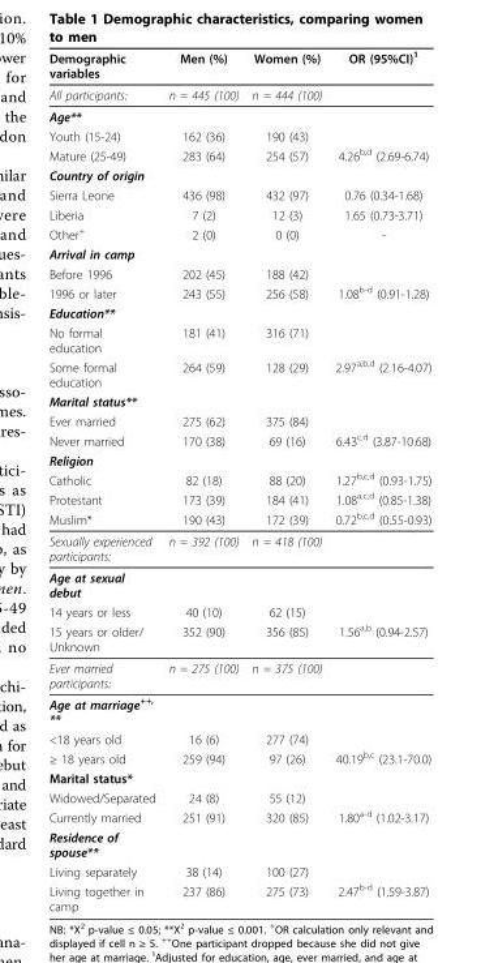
<table><thead><tr><td>Demographic variables</td><td>Men (%)</td><td>Women (%)</td><td>OR (95%CI)<sup>1</sup></td></tr></thead><tbody><tr><td>All participants:</td><td>n = 445 (100)</td><td>n = 444 (100)</td><td></td></tr><tr><td colspan="4">Age**</td></tr><tr><td>Youth (15-24)</td><td>162 (36)</td><td>190 (43)</td><td></td></tr><tr><td>Mature (25-49)</td><td>283 (64)</td><td>254 (57)</td><td>4.26<sup>b,d</sup> (2.69-6.74)</td></tr><tr><td colspan="4">Country of origin</td></tr><tr><td>Sierra Leone</td><td>436 (98)</td><td>432 (97)</td><td>0.76 (0.34-1.68)</td></tr><tr><td>Liberia</td><td>7 (2)</td><td>12 (3)</td><td>1.65 (0.73-3.71)</td></tr><tr><td>Other<sup>+</sup></td><td>2 (0)</td><td>0 (0)</td><td>-</td></tr><tr><td colspan="4">Arrival in camp</td></tr><tr><td>Before 1996</td><td>202 (45)</td><td>188 (42)</td><td></td></tr><tr><td>1996 or later</td><td>243 (55)</td><td>256 (58)</td><td>1.08<sup>b-d</sup> (0.91-1.28)</td></tr><tr><td colspan="4">Education**</td></tr><tr><td>No formal education</td><td>181 (41)</td><td>316 (71)</td><td></td></tr><tr><td>Some formal education</td><td>264 (59)</td><td>128 (29)</td><td>2.97<sup>a,b,d</sup> (2.16-4.07)</td></tr><tr><td colspan="4">Marital status**</td></tr><tr><td>Ever married</td><td>275 (62)</td><td>375 (84)</td><td></td></tr><tr><td>Never married</td><td>170 (38)</td><td>69 (16)</td><td>6.43<sup>c,d</sup> (3.87-10.68)</td></tr><tr><td colspan="4">Religion</td></tr><tr><td>Catholic</td><td>82 (18)</td><td>88 (20)</td><td>1.27<sup>b,c,d</sup> (0.93-1.75)</td></tr><tr><td>Protestant</td><td>173 (39)</td><td>184 (41)</td><td>1.08<sup>a,c,d</sup> (0.85-1.38)</td></tr><tr><td>Muslim*</td><td>190 (43)</td><td>172 (39)</td><td>0.72<sup>b,c,d</sup> (0.55-0.93)</td></tr><tr><td>Sexually experienced participants:</td><td>n = 392 (100)</td><td>n = 418 (100)</td><td></td></tr><tr><td colspan="4">Age at sexual debut</td></tr><tr><td>14 years or less</td><td>40 (10)</td><td>62 (15)</td><td></td></tr><tr><td>15 years or older/ Unknown</td><td>352 (90)</td><td>356 (85)</td><td>1.56<sup>a,b</sup> (0.94-2.57)</td></tr><tr><td>Ever married participants:</td><td>n = 275 (100)</td><td>n = 375 (100)</td><td></td></tr><tr><td colspan="4">Age at marriage<sup>++,</sup> **</td></tr><tr><td>&lt;18 years old</td><td>16 (6)</td><td>277 (74)</td><td></td></tr><tr><td>≥ 18 years old</td><td>259 (94)</td><td>97 (26)</td><td>40.19<sup>b,c</sup> (23.1-70.0)</td></tr><tr><td colspan="4">Marital status*</td></tr><tr><td>Widowed/Separated</td><td>24 (8)</td><td>55 (12)</td><td></td></tr><tr><td>Currently married</td><td>251 (91)</td><td>320 (85)</td><td>1.80<sup>a-d</sup> (1.02-3.17)</td></tr><tr><td colspan="4">Residence of spouse**</td></tr><tr><td>Living separately</td><td>38 (14)</td><td>100 (27)</td><td></td></tr><tr><td>Living together in camp</td><td>237 (86)</td><td>275 (73)</td><td>2.47<sup>b-d</sup> (1.59-3.87)</td></tr></tbody></table>